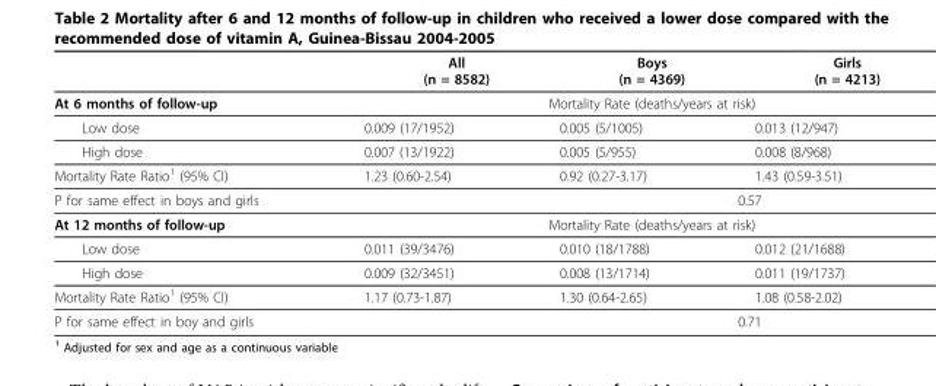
<table><thead><tr><td></td><td>All (n = 8582)</td><td>Boys (n = 4369)</td><td>Girls (n = 4213)</td></tr></thead><tbody><tr><td>At 6 months of follow-up</td><td colspan="3">Mortality Rate (deaths/years at risk)</td></tr><tr><td>Low dose</td><td>0.009 (17/1952)</td><td>0.005 (5/1005)</td><td>0.013 (12/947)</td></tr><tr><td>High dose</td><td>0.007 (13/1922)</td><td>0.005 (5/955)</td><td>0.008 (8/968)</td></tr><tr><td>Mortality Rate Ratio<sup>1</sup> (95% CI)</td><td>1.23 (0.60-2.54)</td><td>0.92 (0.27-3.17)</td><td>1.43 (0.59-3.51)</td></tr><tr><td>P for same effect in boys and girls</td><td></td><td colspan="2">0.57</td></tr><tr><td>At 12 months of follow-up</td><td colspan="3">Mortality Rate (deaths/years at risk)</td></tr><tr><td>Low dose</td><td>0.011 (39/3476)</td><td>0.010 (18/1788)</td><td>0.012 (21/1688)</td></tr><tr><td>High dose</td><td>0.009 (32/3451)</td><td>0.008 (13/1714)</td><td>0.011 (19/1737)</td></tr><tr><td>Mortality Rate Ratio<sup>1</sup> (95% CI)</td><td>1.17 (0.73-1.87)</td><td>1.30 (0.64-2.65)</td><td>1.08 (0.58-2.02)</td></tr><tr><td>P for same effect in boy and girls</td><td></td><td colspan="2">0.71</td></tr></tbody></table>